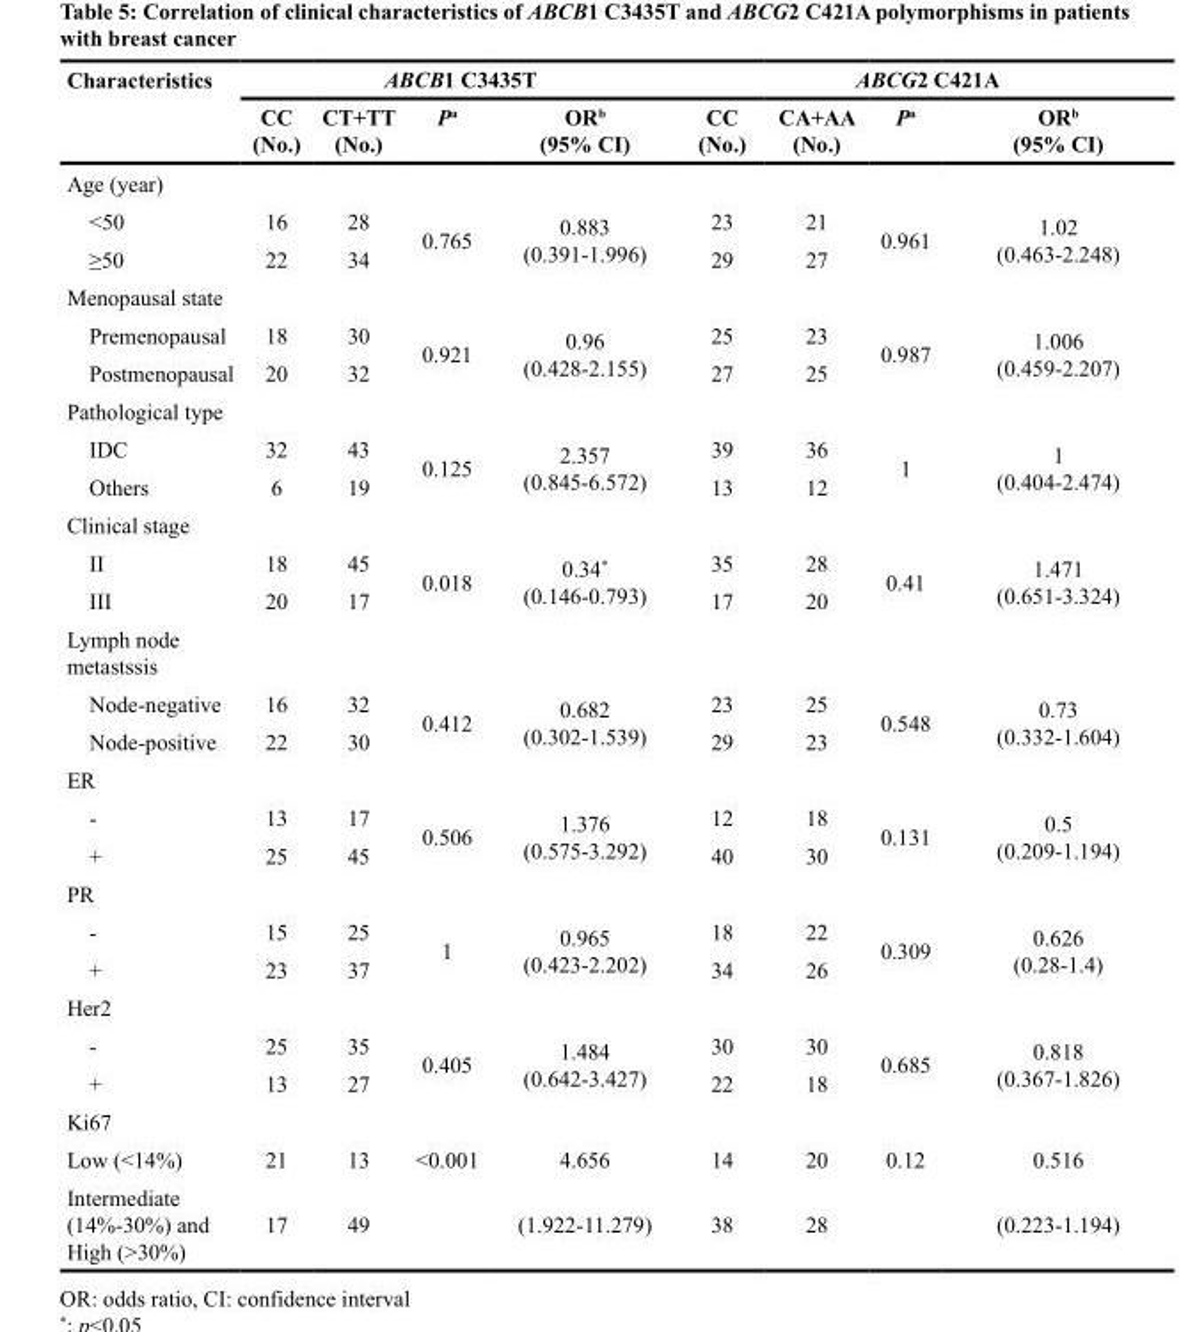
<table><thead><tr><td rowspan="2">Characteristics</td><td colspan="4">ABCB1 C3435T</td><td colspan="4">ABCG2 C421A</td></tr><tr><td>CC (No.)</td><td>CT+TT (No.)</td><td>P<sup>a</sup></td><td>OR<sup>b</sup> (95% CI)</td><td>CC (No.)</td><td>CA+AA (No.)</td><td>P<sup>a</sup></td><td>OR<sup>b</sup> (95% CI)</td></tr></thead><tbody><tr><td colspan="9">Age (year)</td></tr><tr><td>&lt;50</td><td>16</td><td>28</td><td rowspan="2">0.765</td><td rowspan="2">0.883 (0.391-1.996)</td><td>23</td><td>21</td><td rowspan="2">0.961</td><td rowspan="2">1.02 (0.463-2.248)</td></tr><tr><td>≥50</td><td>22</td><td>34</td><td>29</td><td>27</td></tr><tr><td colspan="9">Menopausal state</td></tr><tr><td>Premenopausal</td><td>18</td><td>30</td><td rowspan="2">0.921</td><td rowspan="2">0.96 (0.428-2.155)</td><td>25</td><td>23</td><td rowspan="2">0.987</td><td rowspan="2">1.006 (0.459-2.207)</td></tr><tr><td>Postmenopausal</td><td>20</td><td>32</td><td>27</td><td>25</td></tr><tr><td colspan="9">Pathological type</td></tr><tr><td>IDC</td><td>32</td><td>43</td><td rowspan="2">0.125</td><td rowspan="2">2.357 (0.845-6.572)</td><td>39</td><td>36</td><td rowspan="2">1</td><td rowspan="2">1 (0.404-2.474)</td></tr><tr><td>Others</td><td>6</td><td>19</td><td>13</td><td>12</td></tr><tr><td colspan="9">Clinical stage</td></tr><tr><td>II</td><td>18</td><td>45</td><td rowspan="2">0.018</td><td rowspan="2">0.34* (0.146-0.793)</td><td>35</td><td>28</td><td rowspan="2">0.41</td><td rowspan="2">1.471 (0.651-3.324)</td></tr><tr><td>III</td><td>20</td><td>17</td><td>17</td><td>20</td></tr><tr><td colspan="9">Lymph node metastssis</td></tr><tr><td>Node-negative</td><td>16</td><td>32</td><td rowspan="2">0.412</td><td rowspan="2">0.682 (0.302-1.539)</td><td>23</td><td>25</td><td rowspan="2">0.548</td><td rowspan="2">0.73 (0.332-1.604)</td></tr><tr><td>Node-positive</td><td>22</td><td>30</td><td>29</td><td>23</td></tr><tr><td colspan="9">ER</td></tr><tr><td>-</td><td>13</td><td>17</td><td rowspan="2">0.506</td><td rowspan="2">1.376 (0.575-3.292)</td><td>12</td><td>18</td><td rowspan="2">0.131</td><td rowspan="2">0.5 (0.209-1.194)</td></tr><tr><td>+</td><td>25</td><td>45</td><td>40</td><td>30</td></tr><tr><td colspan="9">PR</td></tr><tr><td>-</td><td>15</td><td>25</td><td rowspan="2">1</td><td rowspan="2">0.965 (0.423-2.202)</td><td>18</td><td>22</td><td rowspan="2">0.309</td><td rowspan="2">0.626 (0.28-1.4)</td></tr><tr><td>+</td><td>23</td><td>37</td><td>34</td><td>26</td></tr><tr><td colspan="9">Her2</td></tr><tr><td>-</td><td>25</td><td>35</td><td rowspan="2">0.405</td><td rowspan="2">1.484 (0.642-3.427)</td><td>30</td><td>30</td><td rowspan="2">0.685</td><td rowspan="2">0.818 (0.367-1.826)</td></tr><tr><td>+</td><td>13</td><td>27</td><td>22</td><td>18</td></tr><tr><td colspan="9">Ki67</td></tr><tr><td>Low (&lt;14%)</td><td>21</td><td>13</td><td>&lt;0.001</td><td>4.656</td><td>14</td><td>20</td><td>0.12</td><td>0.516</td></tr><tr><td>Intermediate (14%-30%) and High (&gt;30%)</td><td>17</td><td>49</td><td></td><td>(1.922-11.279)</td><td>38</td><td>28</td><td></td><td>(0.223-1.194)</td></tr></tbody></table>